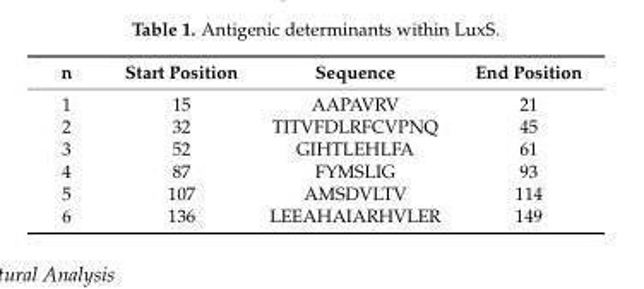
<table><thead><tr><td>n</td><td>Start Position</td><td>Sequence</td><td>End Position</td></tr></thead><tbody><tr><td>1</td><td>15</td><td>AAPAVRV</td><td>21</td></tr><tr><td>2</td><td>32</td><td>TITVFDLRFCVPNQ</td><td>45</td></tr><tr><td>3</td><td>52</td><td>GIHTLEHLFA</td><td>61</td></tr><tr><td>4</td><td>87</td><td>FYMSLIG</td><td>93</td></tr><tr><td>5</td><td>107</td><td>AMSDVLTV</td><td>114</td></tr><tr><td>6</td><td>136</td><td>LEEAHAIARHVLER</td><td>149</td></tr></tbody></table>